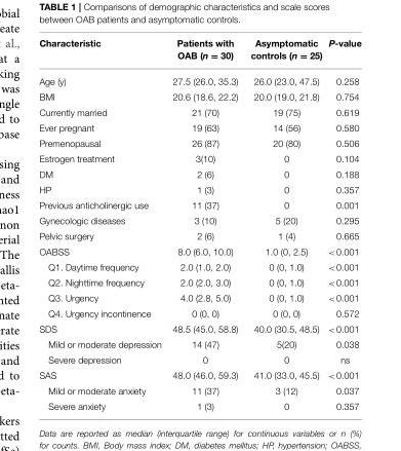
<table><thead><tr><td>Characteristic</td><td>Patients with OAB (n = 30)</td><td>Asymptomatic controls (n = 25)</td><td>P-value</td></tr></thead><tbody><tr><td>Age (y)</td><td>27.5 (26.0, 35.3)</td><td>26.0 (23.0, 47.5)</td><td>0.258</td></tr><tr><td>BMI</td><td>20.6 (18.6, 22.2)</td><td>20.0 (19.0, 21.8)</td><td>0.754</td></tr><tr><td>Currently married</td><td>21 (70)</td><td>19 (75)</td><td>0.619</td></tr><tr><td>Ever pregnant</td><td>19 (63)</td><td>14 (56)</td><td>0.580</td></tr><tr><td>Premenopausal</td><td>26 (87)</td><td>20 (80)</td><td>0.506</td></tr><tr><td>Estrogen treatment</td><td>3(10)</td><td>0</td><td>0.104</td></tr><tr><td>DM</td><td>2 (6)</td><td>0</td><td>0.188</td></tr><tr><td>HP</td><td>1 (3)</td><td>0</td><td>0.357</td></tr><tr><td>Previous anticholinergic use</td><td>11 (37)</td><td>0</td><td>0.001</td></tr><tr><td>Gynecologic diseases</td><td>3 (10)</td><td>5 (20)</td><td>0.295</td></tr><tr><td>Pelvic surgery</td><td>2 (6)</td><td>1 (4)</td><td>0.665</td></tr><tr><td>OABSS</td><td>8.0 (6.0, 10.0)</td><td>1.0 (0, 2.5)</td><td>&lt;0.001</td></tr><tr><td>Q1. Daytime frequency</td><td>2.0 (1.0, 2.0)</td><td>0 (0, 1.0)</td><td>&lt;0.001</td></tr><tr><td>Q2. Nighttime frequency</td><td>2.0 (2.0, 3.0)</td><td>0 (0, 1.0)</td><td>&lt;0.001</td></tr><tr><td>Q3. Urgency</td><td>4.0 (2.8, 5.0)</td><td>0 (0, 1.0)</td><td>&lt;0.001</td></tr><tr><td>Q4. Urgency incontinence</td><td>0 (0, 0)</td><td>0 (0, 0)</td><td>0.572</td></tr><tr><td>SDS</td><td>48.5 (45.0, 58.8)</td><td>40.0 (30.5, 48.5)</td><td>&lt;0.001</td></tr><tr><td>Mild or moderate depression</td><td>14 (47)</td><td>5(20)</td><td>0.038</td></tr><tr><td>Severe depression</td><td>0</td><td>0</td><td>ns</td></tr><tr><td>SAS</td><td>48.0 (46.0, 59.3)</td><td>41.0 (33.0, 45.5)</td><td>&lt;0.001</td></tr><tr><td>Mild or moderate anxiety</td><td>11 (37)</td><td>3 (12)</td><td>0.037</td></tr><tr><td>Severe anxiety</td><td>1 (3)</td><td>0</td><td>0.357</td></tr></tbody></table>